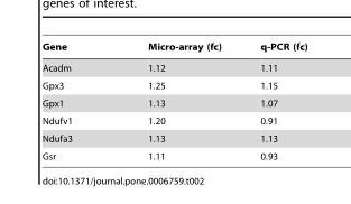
<table><thead><tr><td>Gene</td><td>Micro-array (fc)</td><td>q-PCR (fc)</td></tr></thead><tbody><tr><td>Acadm</td><td>1.12</td><td>1.11</td></tr><tr><td>Gpx3</td><td>1.25</td><td>1.15</td></tr><tr><td>Gpx1</td><td>1.13</td><td>1.07</td></tr><tr><td>Ndufv1</td><td>1.20</td><td>0.91</td></tr><tr><td>Ndufa3</td><td>1.13</td><td>1.13</td></tr><tr><td>Gsr</td><td>1.11</td><td>0.93</td></tr></tbody></table>